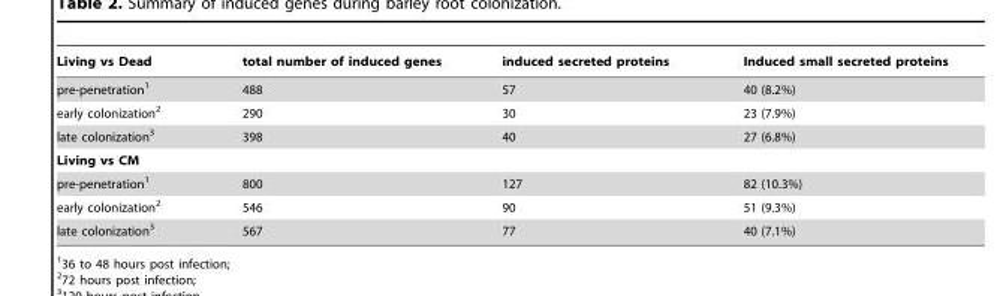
<table><thead><tr><td>Living vs Dead</td><td>total number of induced genes</td><td>induced secreted proteins</td><td>Induced small secreted proteins</td></tr></thead><tbody><tr><td>pre-penetration<sup>1</sup></td><td>488</td><td>57</td><td>40 (8.2%)</td></tr><tr><td>early colonization<sup>2</sup></td><td>290</td><td>30</td><td>23 (7.9%)</td></tr><tr><td>late colonization<sup>3</sup></td><td>398</td><td>40</td><td>27 (6.8%)</td></tr><tr><td colspan="4">Living vs CM</td></tr><tr><td>pre-penetration<sup>1</sup></td><td>800</td><td>127</td><td>82 (10.3%)</td></tr><tr><td>early colonization<sup>2</sup></td><td>546</td><td>90</td><td>51 (9.3%)</td></tr><tr><td>late colonization<sup>3</sup></td><td>567</td><td>77</td><td>40 (7.1%)</td></tr></tbody></table>